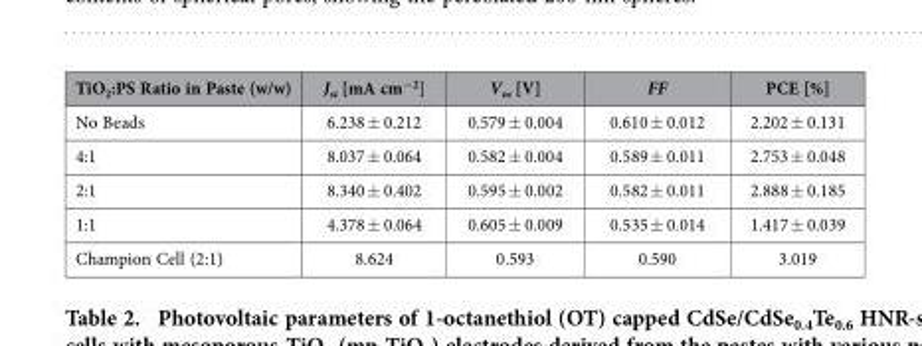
<table><thead><tr><td>TiO<sub>2</sub>:PS Ratio in Paste (w/w)</td><td>J<sub>sc</sub> [mA cm<sup>−2</sup>]</td><td>V<sub>oc</sub> [V]</td><td>FF</td><td>PCE [%]</td></tr></thead><tbody><tr><td>No Beads</td><td>6.238 ± 0.212</td><td>0.579 ± 0.004</td><td>0.610 ± 0.012</td><td>2.202 ± 0.131</td></tr><tr><td>4:1</td><td>8.037 ± 0.064</td><td>0.582 ± 0.004</td><td>0.589 ± 0.011</td><td>2.753 ± 0.048</td></tr><tr><td>2:1</td><td>8.340 ± 0.402</td><td>0.595 ± 0.002</td><td>0.582 ± 0.011</td><td>2.888 ± 0.185</td></tr><tr><td>1:1</td><td>4.378 ± 0.064</td><td>0.605 ± 0.009</td><td>0.535 ± 0.014</td><td>1.417 ± 0.039</td></tr><tr><td>Champion Cell (2:1)</td><td>8.624</td><td>0.593</td><td>0.590</td><td>3.019</td></tr></tbody></table>